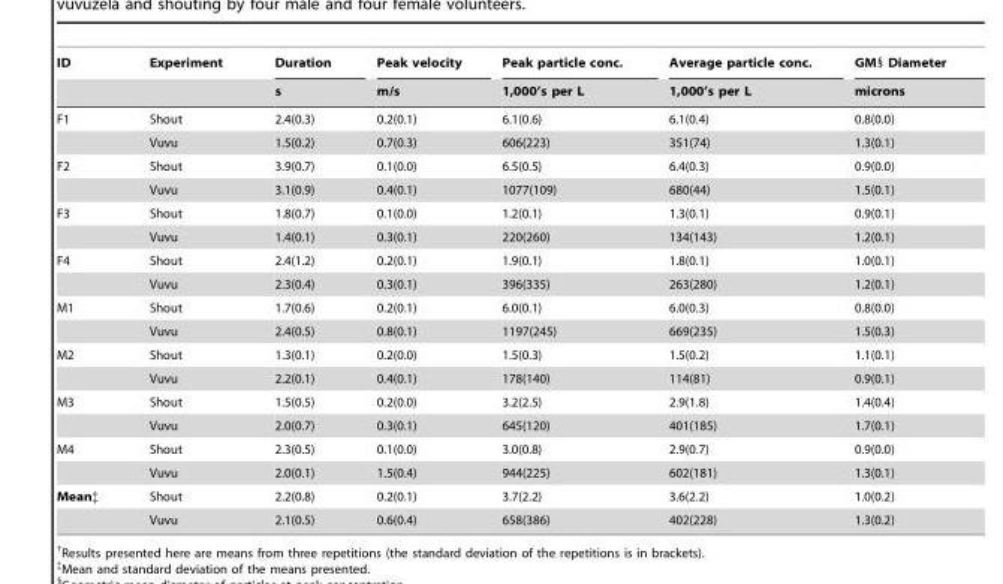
<table><thead><tr><td rowspan="2">ID</td><td rowspan="2">Experiment</td><td rowspan="2">Duration s</td><td rowspan="2">Peak velocity m/s</td><td rowspan="2">Peak particle conc. 1,000’s per L</td><td rowspan="2">Average particle conc. 1,000’s per L</td><td rowspan="2">GM§ Diameter microns</td></tr><tr></tr></thead><tbody><tr><td rowspan="2">F1</td><td>Shout</td><td>2.4(0.3)</td><td>0.2(0.1)</td><td>6.1(0.6)</td><td>6.1(0.4)</td><td>0.8(0.0)</td></tr><tr><td>Vuvu</td><td>1.5(0.2)</td><td>0.7(0.3)</td><td>606(223)</td><td>351(74)</td><td>1.3(0.1)</td></tr><tr><td rowspan="2">F2</td><td>Shout</td><td>3.9(0.7)</td><td>0.1(0.0)</td><td>6.5(0.5)</td><td>6.4(0.3)</td><td>0.9(0.0)</td></tr><tr><td>Vuvu</td><td>3.1(0.9)</td><td>0.4(0.1)</td><td>1077(109)</td><td>680(44)</td><td>1.5(0.1)</td></tr><tr><td rowspan="2">F3</td><td>Shout</td><td>1.8(0.7)</td><td>0.1(0.0)</td><td>1.2(0.1)</td><td>1.3(0.1)</td><td>0.9(0.1)</td></tr><tr><td>Vuvu</td><td>1.4(0.1)</td><td>0.3(0.1)</td><td>220(260)</td><td>134(143)</td><td>1.2(0.1)</td></tr><tr><td rowspan="2">F4</td><td>Shout</td><td>2.4(1.2)</td><td>0.2(0.1)</td><td>1.9(0.1)</td><td>1.8(0.1)</td><td>1.0(0.1)</td></tr><tr><td>Vuvu</td><td>2.3(0.4)</td><td>0.3(0.1)</td><td>396(335)</td><td>263(280)</td><td>1.2(0.1)</td></tr><tr><td rowspan="2">M1</td><td>Shout</td><td>1.7(0.6)</td><td>0.2(0.1)</td><td>6.0(0.1)</td><td>6.0(0.3)</td><td>0.8(0.0)</td></tr><tr><td>Vuvu</td><td>2.4(0.5)</td><td>0.8(0.1)</td><td>1197(245)</td><td>669(235)</td><td>1.5(0.3)</td></tr><tr><td rowspan="2">M2</td><td>Shout</td><td>1.3(0.1)</td><td>0.2(0.0)</td><td>1.5(0.3)</td><td>1.5(0.2)</td><td>1.1(0.1)</td></tr><tr><td>Vuvu</td><td>2.2(0.1)</td><td>0.4(0.1)</td><td>178(140)</td><td>114(81)</td><td>0.9(0.1)</td></tr><tr><td rowspan="2">M3</td><td>Shout</td><td>1.5(0.5)</td><td>0.2(0.0)</td><td>3.2(2.5)</td><td>2.9(1.8)</td><td>1.4(0.4)</td></tr><tr><td>Vuvu</td><td>2.0(0.7)</td><td>0.3(0.1)</td><td>645(120)</td><td>401(185)</td><td>1.7(0.1)</td></tr><tr><td rowspan="2">M4</td><td>Shout</td><td>2.3(0.5)</td><td>0.1(0.0)</td><td>3.0(0.8)</td><td>2.9(0.7)</td><td>0.9(0.0)</td></tr><tr><td>Vuvu</td><td>2.0(0.1)</td><td>1.5(0.4)</td><td>944(225)</td><td>602(181)</td><td>1.3(0.1)</td></tr><tr><td rowspan="2">Mean‡</td><td>Shout</td><td>2.2(0.8)</td><td>0.2(0.1)</td><td>3.7(2.2)</td><td>3.6(2.2)</td><td>1.0(0.2)</td></tr><tr><td>Vuvu</td><td>2.1(0.5)</td><td>0.6(0.4)</td><td>658(386)</td><td>402(228)</td><td>1.3(0.2)</td></tr></tbody></table>